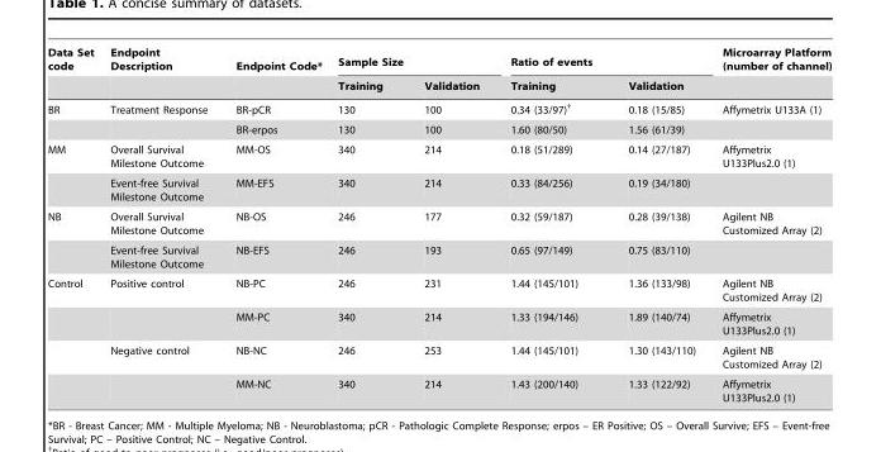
<table><thead><tr><td rowspan="2">Data Set code</td><td rowspan="2">Endpoint Description</td><td rowspan="2">Endpoint Code*</td><td colspan="2">Sample Size</td><td colspan="2">Ratio of events</td><td rowspan="2">Microarray Platform (number of channel)</td></tr><tr><td>Training</td><td>Validation</td><td>Training</td><td>Validation</td></tr></thead><tbody><tr><td rowspan="2">BR</td><td>Treatment Response</td><td>BR-pCR</td><td>130</td><td>100</td><td>0.34 (33/97)†</td><td>0.18 (15/85)</td><td>Affymetrix U133A (1)</td></tr><tr><td></td><td>BR-erpos</td><td>130</td><td>100</td><td>1.60 (80/50)</td><td>1.56 (61/39)</td><td></td></tr><tr><td rowspan="2">MM</td><td>Overall Survival Milestone Outcome</td><td>MM-OS</td><td>340</td><td>214</td><td>0.18 (51/289)</td><td>0.14 (27/187)</td><td>Affymetrix U133Plus2.0 (1)</td></tr><tr><td>Event-free Survival Milestone Outcome</td><td>MM-EFS</td><td>340</td><td>214</td><td>0.33 (84/256)</td><td>0.19 (34/180)</td><td></td></tr><tr><td rowspan="2">NB</td><td>Overall Survival Milestone Outcome</td><td>NB-OS</td><td>246</td><td>177</td><td>0.32 (59/187)</td><td>0.28 (39/138)</td><td>Agilent NB Customized Array (2)</td></tr><tr><td>Event-free Survival Milestone Outcome</td><td>NB-EFS</td><td>246</td><td>193</td><td>0.65 (97/149)</td><td>0.75 (83/110)</td><td></td></tr><tr><td rowspan="4">Control</td><td>Positive control</td><td>NB-PC</td><td>246</td><td>231</td><td>1.44 (145/101)</td><td>1.36 (133/98)</td><td>Agilent NB Customized Array (2)</td></tr><tr><td></td><td>MM-PC</td><td>340</td><td>214</td><td>1.33 (194/146)</td><td>1.89 (140/74)</td><td>Affymetrix U133Plus2.0 (1)</td></tr><tr><td>Negative control</td><td>NB-NC</td><td>246</td><td>253</td><td>1.44 (145/101)</td><td>1.30 (143/110)</td><td>Agilent NB Customized Array (2)</td></tr><tr><td></td><td>MM-NC</td><td>340</td><td>214</td><td>1.43 (200/140)</td><td>1.33 (122/92)</td><td>Affymetrix U133Plus2.0 (1)</td></tr></tbody></table>